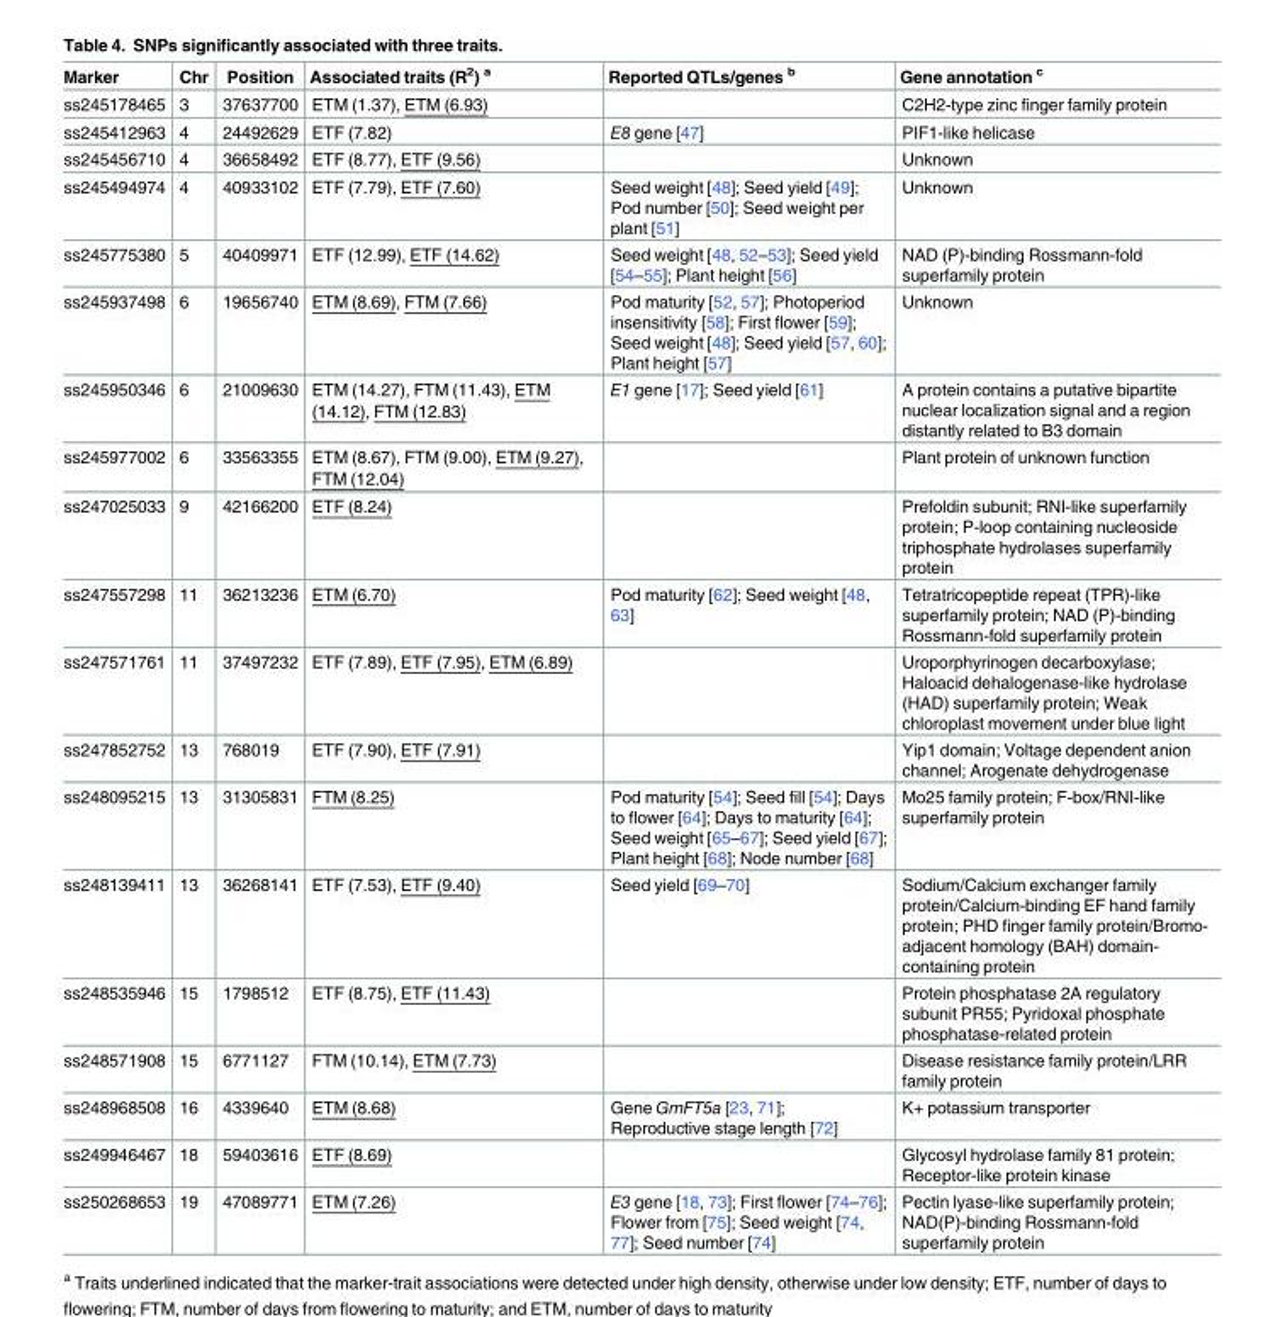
<table><thead><tr><td>Marker</td><td>Chr</td><td>Position</td><td>Associated traits (R<sup>2</sup>) <sup>a</sup></td><td>Reported QTLs/genes <sup>b</sup></td><td>Gene annotation <sup>c</sup></td></tr></thead><tbody><tr><td>ss245178465</td><td>3</td><td>37637700</td><td>ETM (1.37), ETM (6.93)</td><td></td><td>C2H2-type zinc finger family protein</td></tr><tr><td>ss245412963</td><td>4</td><td>24492629</td><td>ETF (7.82)</td><td>E8 gene [47]</td><td>PIF1-like helicase</td></tr><tr><td>ss245456710</td><td>4</td><td>36658492</td><td>ETF (8.77), ETF (9.56)</td><td></td><td>Unknown</td></tr><tr><td>ss245494974</td><td>4</td><td>40933102</td><td>ETF (7.79), ETF (7.60)</td><td>Seed weight [48]; Seed yield [49]; Pod number [50]; Seed weight per plant [51]</td><td>Unknown</td></tr><tr><td>ss245775380</td><td>5</td><td>40409971</td><td>ETF (12.99), ETF (14.62)</td><td>Seed weight [48, 52–53]; Seed yield [54–55]; Plant height [56]</td><td>NAD (P)-binding Rossmann-fold superfamily protein</td></tr><tr><td>ss245937498</td><td>6</td><td>19656740</td><td>ETM (8.69), FTM (7.66)</td><td>Pod maturity [52, 57]; Photoperiod insensitivity [58]; First flower [59]; Seed weight [48]; Seed yield [57, 60]; Plant height [57]</td><td>Unknown</td></tr><tr><td>ss245950346</td><td>6</td><td>21009630</td><td>ETM (14.27), FTM (11.43), ETM (14.12), FTM (12.83)</td><td>E1 gene [17]; Seed yield [61]</td><td>A protein contains a putative bipartite nuclear localization signal and a region distantly related to B3 domain</td></tr><tr><td>ss245977002</td><td>6</td><td>33563355</td><td>ETM (8.67), FTM (9.00), ETM (9.27), FTM (12.04)</td><td></td><td>Plant protein of unknown function</td></tr><tr><td>ss247025033</td><td>9</td><td>42166200</td><td>ETF (8.24)</td><td></td><td>Prefoldin subunit; RNI-like superfamily protein; P-loop containing nucleoside triphosphate hydrolases superfamily protein</td></tr><tr><td>ss247557298</td><td>11</td><td>36213236</td><td>ETM (6.70)</td><td>Pod maturity [62]; Seed weight [48, 63]</td><td>Tetratricopeptide repeat (TPR)-like superfamily protein; NAD (P)-binding Rossmann-fold superfamily protein</td></tr><tr><td>ss247571761</td><td>11</td><td>37497232</td><td>ETF (7.89), ETF (7.95), ETM (6.89)</td><td></td><td>Uroporphyrinogen decarboxylase; Haloacid dehalogenase-like hydrolase (HAD) superfamily protein; Weak chloroplast movement under blue light</td></tr><tr><td>ss247852752</td><td>13</td><td>768019</td><td>ETF (7.90), ETF (7.91)</td><td></td><td>Yip1 domain; Voltage dependent anion channel; Arogenate dehydrogenase</td></tr><tr><td>ss248095215</td><td>13</td><td>31305831</td><td>FTM (8.25)</td><td>Pod maturity [54]; Seed fill [54]; Days to flower [64]; Days to maturity [64]; Seed weight [65–67]; Seed yield [67]; Plant height [68]; Node number [68]</td><td>Mo25 family protein; F-box/RNI-like superfamily protein</td></tr><tr><td>ss248139411</td><td>13</td><td>36268141</td><td>ETF (7.53), ETF (9.40)</td><td>Seed yield [69–70]</td><td>Sodium/Calcium exchanger family protein/Calcium-binding EF hand family protein; PHD finger family protein/Bromo- adjacent homology (BAH) domain- containing protein</td></tr><tr><td>ss248535946</td><td>15</td><td>1798512</td><td>ETF (8.75), ETF (11.43)</td><td></td><td>Protein phosphatase 2A regulatory subunit PR55; Pyridoxal phosphate phosphatase-related protein</td></tr><tr><td>ss248571908</td><td>15</td><td>6771127</td><td>FTM (10.14), ETM (7.73)</td><td></td><td>Disease resistance family protein/LRR family protein</td></tr><tr><td>ss248968508</td><td>16</td><td>4339640</td><td>ETM (8.68)</td><td>Gene GmFT5a [23, 71]; Reproductive stage length [72]</td><td>K+ potassium transporter</td></tr><tr><td>ss249946467</td><td>18</td><td>59403616</td><td>ETF (8.69)</td><td></td><td>Glycosyl hydrolase family 81 protein; Receptor-like protein kinase</td></tr><tr><td>ss250268653</td><td>19</td><td>47089771</td><td>ETM (7.26)</td><td>E3 gene [18, 73]; First flower [74–76]; Flower from [75]; Seed weight [74, 77]; Seed number [74]</td><td>Pectin lyase-like superfamily protein; NAD(P)-binding Rossmann-fold superfamily protein</td></tr></tbody></table>